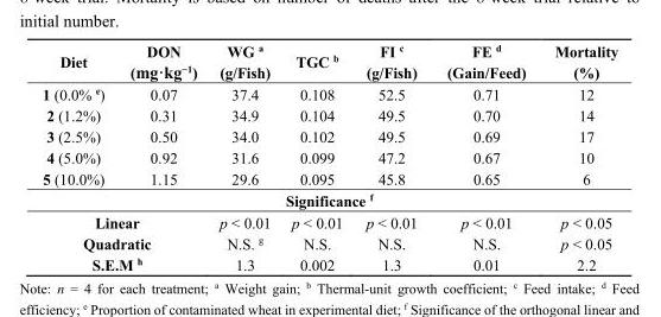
<table><thead><tr><td rowspan="2">Diet</td><td rowspan="2">DON (mg·kg<sup>−1</sup>)</td><td rowspan="2">WG <sup>a</sup> (g/Fish)</td><td rowspan="2">TGC <sup>b</sup></td><td rowspan="2">FI <sup>c</sup> (g/Fish)</td><td rowspan="2">FE <sup>d</sup> (Gain/Feed)</td><td rowspan="2">Mortality (%)</td></tr><tr></tr></thead><tbody><tr><td>1 (0.0% <sup>e</sup>)</td><td>0.07</td><td>37.4</td><td>0.108</td><td>52.5</td><td>0.71</td><td>12</td></tr><tr><td>2 (1.2%)</td><td>0.31</td><td>34.9</td><td>0.104</td><td>49.5</td><td>0.70</td><td>14</td></tr><tr><td>3 (2.5%)</td><td>0.50</td><td>34.0</td><td>0.102</td><td>49.5</td><td>0.69</td><td>17</td></tr><tr><td>4 (5.0%)</td><td>0.92</td><td>31.6</td><td>0.099</td><td>47.2</td><td>0.67</td><td>10</td></tr><tr><td>5 (10.0%)</td><td>1.15</td><td>29.6</td><td>0.095</td><td>45.8</td><td>0.65</td><td>6</td></tr><tr><td colspan="7">Significance <sup>f</sup></td></tr><tr><td colspan="2">Linear</td><td>p &lt; 0.01</td><td>p &lt; 0.01</td><td>p &lt; 0.01</td><td>p &lt; 0.01</td><td>p &lt; 0.05</td></tr><tr><td colspan="2">Quadratic</td><td>N.S. <sup>g</sup></td><td>N.S.</td><td>N.S.</td><td>N.S.</td><td>p &lt; 0.05</td></tr><tr><td colspan="2">S.E.M <sup>h</sup></td><td>1.3</td><td>0.002</td><td>1.3</td><td>0.01</td><td>2.2</td></tr></tbody></table>